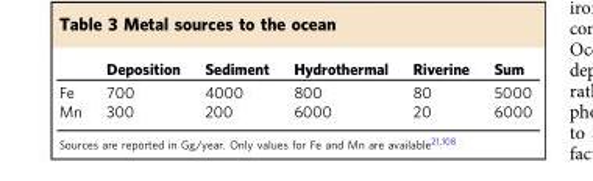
<table><thead><tr><td></td><td>Deposition</td><td>Sediment</td><td>Hydrothermal</td><td>Riverine</td><td>Sum</td></tr></thead><tbody><tr><td>Fe</td><td>700</td><td>4000</td><td>800</td><td>80</td><td>5000</td></tr><tr><td>Mn</td><td>300</td><td>200</td><td>6000</td><td>20</td><td>6000</td></tr></tbody></table>